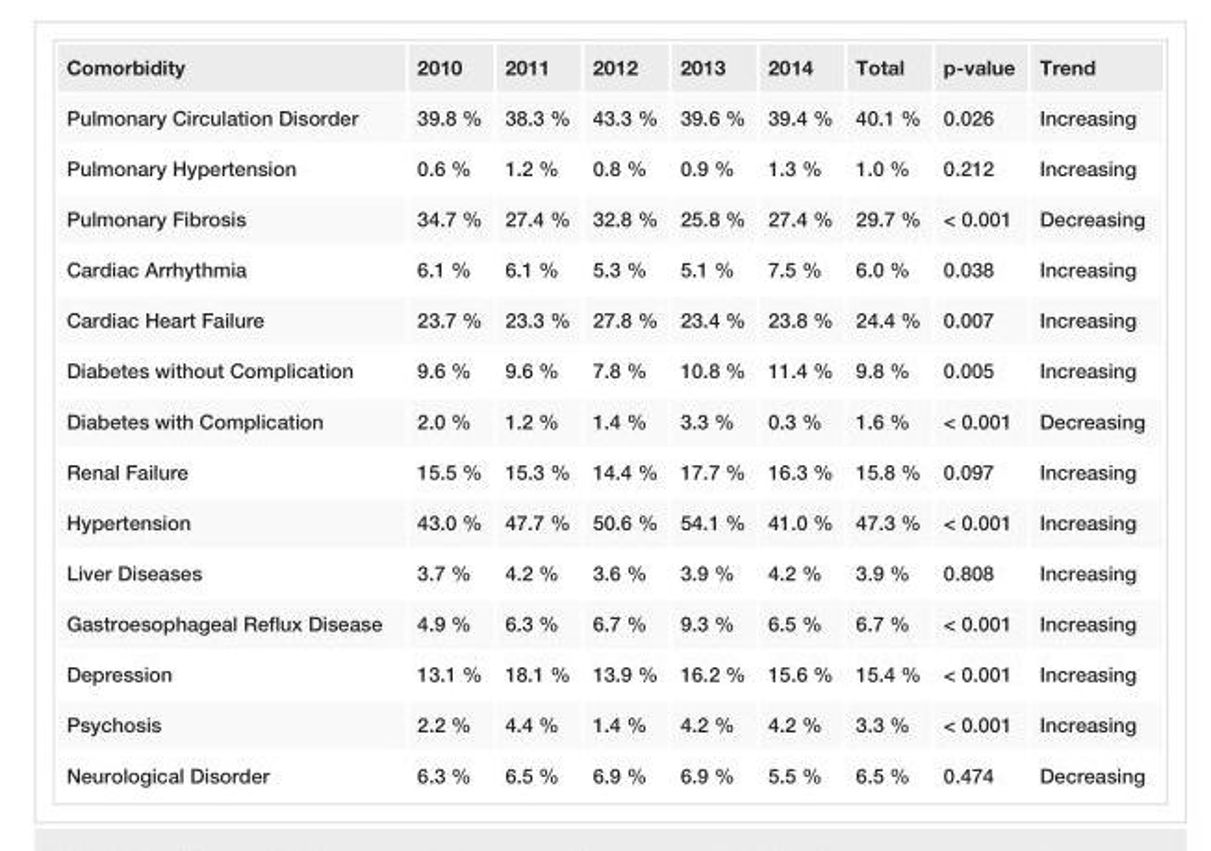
<table><tbody><tr><td>Comorbidity</td><td>2010</td><td>2011</td><td>2012</td><td>2013</td><td>2014</td><td>Total</td><td>p-value</td><td>Trend</td></tr><tr><td>Pulmonary Circulation Disorder</td><td>39.8 %</td><td>38.3 %</td><td>43.3 %</td><td>39.6 %</td><td>39.4 %</td><td>40.1 %</td><td>0.026</td><td>Increasing</td></tr><tr><td>Pulmonary Hypertension</td><td>0.6 %</td><td>1.2 %</td><td>0.8 %</td><td>0.9 %</td><td>1.3 %</td><td>1.0 %</td><td>0.212</td><td>Increasing</td></tr><tr><td>Pulmonary Fibrosis</td><td>34.7 %</td><td>27.4 %</td><td>32.8 %</td><td>25.8 %</td><td>27.4 %</td><td>29.7 %</td><td>&lt; 0.001</td><td>Decreasing</td></tr><tr><td>Cardiac Arrhythmia</td><td>6.1 %</td><td>6.1 %</td><td>5.3 %</td><td>5.1 %</td><td>7.5 %</td><td>6.0 %</td><td>0.038</td><td>Increasing</td></tr><tr><td>Cardiac Heart Failure</td><td>23.7 %</td><td>23.3 %</td><td>27.8 %</td><td>23.4 %</td><td>23.8 %</td><td>24.4 %</td><td>0.007</td><td>Increasing</td></tr><tr><td>Diabetes without Complication</td><td>9.6 %</td><td>9.6 %</td><td>7.8 %</td><td>10.8 %</td><td>11.4 %</td><td>9.8 %</td><td>0.005</td><td>Increasing</td></tr><tr><td>Diabetes with Complication</td><td>2.0 %</td><td>1.2 %</td><td>1.4 %</td><td>3.3 %</td><td>0.3 %</td><td>1.6 %</td><td>&lt; 0.001</td><td>Decreasing</td></tr><tr><td>Renal Failure</td><td>15.5 %</td><td>15.3 %</td><td>14.4 %</td><td>17.7 %</td><td>16.3 %</td><td>15.8 %</td><td>0.097</td><td>Increasing</td></tr><tr><td>Hypertension</td><td>43.0 %</td><td>47.7 %</td><td>50.6 %</td><td>54.1 %</td><td>41.0 %</td><td>47.3 %</td><td>&lt; 0.001</td><td>Increasing</td></tr><tr><td>Liver Diseases</td><td>3.7 %</td><td>4.2 %</td><td>3.6 %</td><td>3.9 %</td><td>4.2 %</td><td>3.9 %</td><td>0.808</td><td>Increasing</td></tr><tr><td>Gastroesophageal Reflux Disease</td><td>4.9 %</td><td>6.3 %</td><td>6.7 %</td><td>9.3 %</td><td>6.5 %</td><td>6.7 %</td><td>&lt; 0.001</td><td>Increasing</td></tr><tr><td>Depression</td><td>13.1 %</td><td>18.1 %</td><td>13.9 %</td><td>16.2 %</td><td>15.6 %</td><td>15.4 %</td><td>&lt; 0.001</td><td>Increasing</td></tr><tr><td>Psychosis</td><td>2.2 %</td><td>4.4 %</td><td>1.4 %</td><td>4.2 %</td><td>4.2 %</td><td>3.3 %</td><td>&lt; 0.001</td><td>Increasing</td></tr><tr><td>Neurological Disorder</td><td>6.3 %</td><td>6.5 %</td><td>6.9 %</td><td>6.9 %</td><td>5.5 %</td><td>6.5 %</td><td>0.474</td><td>Decreasing</td></tr></tbody></table>